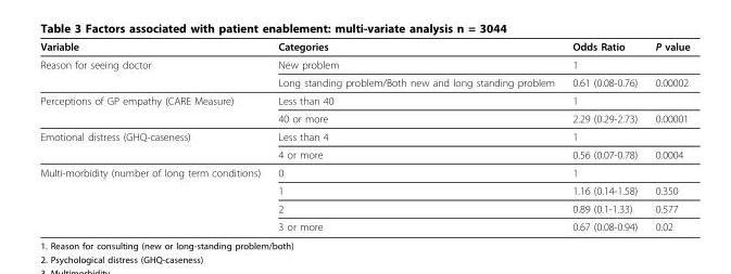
<table><thead><tr><td>Variable</td><td>Categories</td><td>Odds Ratio</td><td>P value</td></tr></thead><tbody><tr><td rowspan="2">Reason for seeing doctor</td><td>New problem</td><td>1</td><td></td></tr><tr><td>Long standing problem/Both new and long standing problem</td><td>0.61 (0.08-0.76)</td><td>0.00002</td></tr><tr><td rowspan="2">Perceptions of GP empathy (CARE Measure)</td><td>Less than 40</td><td>1</td><td></td></tr><tr><td>40 or more</td><td>2.29 (0.29-2.73)</td><td>0.00001</td></tr><tr><td rowspan="2">Emotional distress (GHQ-caseness)</td><td>Less than 4</td><td>1</td><td></td></tr><tr><td>4 or more</td><td>0.56 (0.07-0.78)</td><td>0.0004</td></tr><tr><td rowspan="4">Multi-morbidity (number of long term conditions)</td><td>0</td><td>1</td><td></td></tr><tr><td>1</td><td>1.16 (0.14-1.58)</td><td>0.350</td></tr><tr><td>2</td><td>0.89 (0.1-1.33)</td><td>0.577</td></tr><tr><td>3 or more</td><td>0.67 (0.08-0.94)</td><td>0.02</td></tr></tbody></table>